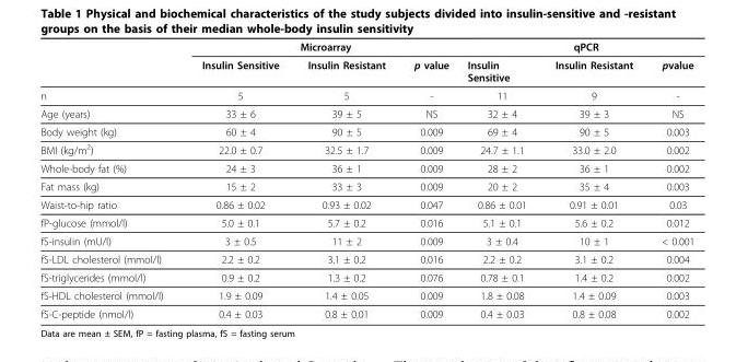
<table><thead><tr><td rowspan="2"></td><td colspan="3">Microarray</td><td colspan="3">qPCR</td></tr><tr><td>Insulin Sensitive</td><td>Insulin Resistant</td><td>p value</td><td>Insulin Sensitive</td><td>Insulin Resistant</td><td>pvalue</td></tr></thead><tbody><tr><td>n</td><td>5</td><td>5</td><td>-</td><td>11</td><td>9</td><td>-</td></tr><tr><td>Age (years)</td><td>33 ± 6</td><td>39 ± 5</td><td>NS</td><td>32 ± 4</td><td>39 ± 3</td><td>NS</td></tr><tr><td>Body weight (kg)</td><td>60 ± 4</td><td>90 ± 5</td><td>0.009</td><td>69 ± 4</td><td>90 ± 5</td><td>0.003</td></tr><tr><td>BMI (kg/m<sup>2</sup>)</td><td>22.0 ± 0.7</td><td>32.5 ± 1.7</td><td>0.009</td><td>24.7 ± 1.1</td><td>33.0 ± 2.0</td><td>0.002</td></tr><tr><td>Whole-body fat (%)</td><td>24 ± 3</td><td>36 ± 1</td><td>0.009</td><td>28 ± 2</td><td>36 ± 1</td><td>0.002</td></tr><tr><td>Fat mass (kg)</td><td>15 ± 2</td><td>33 ± 3</td><td>0.009</td><td>20 ± 2</td><td>35 ± 4</td><td>0.003</td></tr><tr><td>Waist-to-hip ratio</td><td>0.86 ± 0.02</td><td>0.93 ± 0.02</td><td>0.047</td><td>0.86 ± 0.01</td><td>0.91 ± 0.01</td><td>0.03</td></tr><tr><td>fP-glucose (mmol/l)</td><td>5.0 ± 0.1</td><td>5.7 ± 0.2</td><td>0.016</td><td>5.1 ± 0.1</td><td>5.6 ± 0.2</td><td>0.012</td></tr><tr><td>fS-insulin (mU/l)</td><td>3 ± 0.5</td><td>11 ± 2</td><td>0.009</td><td>3 ± 0.4</td><td>10 ± 1</td><td>&lt; 0.001</td></tr><tr><td>fS-LDL cholesterol (mmol/l)</td><td>2.2 ± 0.2</td><td>3.1 ± 0.2</td><td>0.016</td><td>2.2 ± 0.2</td><td>3.1 ± 0.2</td><td>0.004</td></tr><tr><td>fS-triglycerides (mmol/l)</td><td>0.9 ± 0.2</td><td>1.3 ± 0.2</td><td>0.076</td><td>0.78 ± 0.1</td><td>1.4 ± 0.2</td><td>0.002</td></tr><tr><td>fS-HDL cholesterol (mmol/l)</td><td>1.9 ± 0.09</td><td>1.4 ± 0.05</td><td>0.009</td><td>1.8 ± 0.08</td><td>1.4 ± 0.09</td><td>0.003</td></tr><tr><td>fS-C-peptide (nmol/l)</td><td>0.4 ± 0.03</td><td>0.8 ± 0.01</td><td>0.009</td><td>0.4 ± 0.03</td><td>0.8 ± 0.08</td><td>0.002</td></tr></tbody></table>